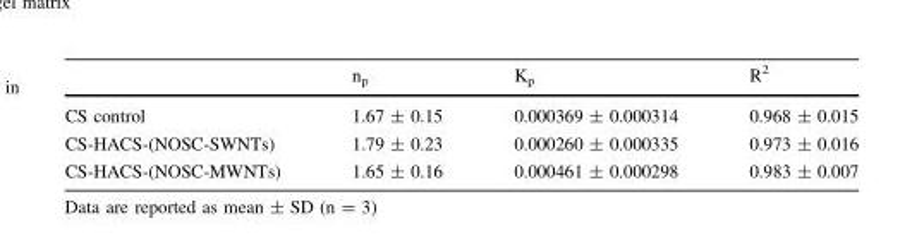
<table><thead><tr><td></td><td>n<sub>p</sub></td><td>K<sub>p</sub></td><td>R<sup>2</sup></td></tr></thead><tbody><tr><td>CS control</td><td>1.67 ± 0.15</td><td>0.000369 ± 0.000314</td><td>0.968 ± 0.015</td></tr><tr><td>CS-HACS-(NOSC-SWNTs)</td><td>1.79 ± 0.23</td><td>0.000260 ± 0.000335</td><td>0.973 ± 0.016</td></tr><tr><td>CS-HACS-(NOSC-MWNTs)</td><td>1.65 ± 0.16</td><td>0.000461 ± 0.000298</td><td>0.983 ± 0.007</td></tr></tbody></table>